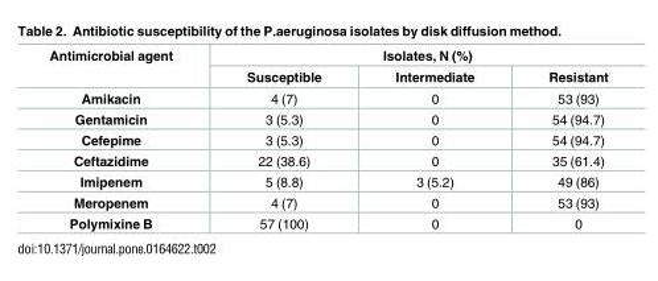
<table><thead><tr><td rowspan="2">Antimicrobial agent</td><td colspan="3">Isolates, N (%)</td></tr><tr><td>Susceptible</td><td>Intermediate</td><td>Resistant</td></tr></thead><tbody><tr><td>Amikacin</td><td>4 (7)</td><td>0</td><td>53 (93)</td></tr><tr><td>Gentamicin</td><td>3 (5.3)</td><td>0</td><td>54 (94.7)</td></tr><tr><td>Cefepime</td><td>3 (5.3)</td><td>0</td><td>54 (94.7)</td></tr><tr><td>Ceftazidime</td><td>22 (38.6)</td><td>0</td><td>35 (61.4)</td></tr><tr><td>Imipenem</td><td>5 (8.8)</td><td>3 (5.2)</td><td>49 (86)</td></tr><tr><td>Meropenem</td><td>4 (7)</td><td>0</td><td>53 (93)</td></tr><tr><td>Polymixine B</td><td>57 (100)</td><td>0</td><td>0</td></tr></tbody></table>